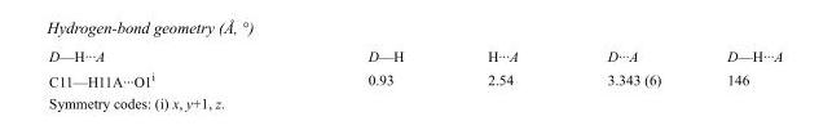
<table><tbody><tr><td>D—H···A</td><td>D—H</td><td>H···A</td><td>D···A</td><td>D—H···A</td></tr><tr><td>C11—H11A···O1<sup>i</sup></td><td>0.93</td><td>2.54</td><td>3.343 (6)</td><td>146</td></tr></tbody></table>